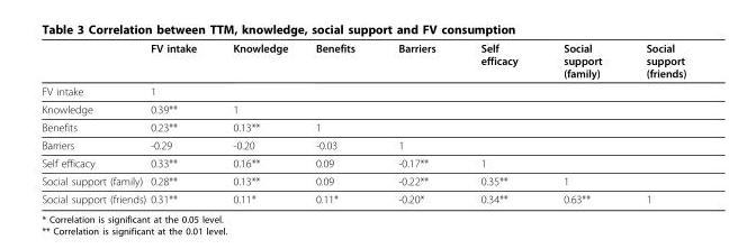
<table><thead><tr><td></td><td>FV intake</td><td>Knowledge</td><td>Benefits</td><td>Barriers</td><td>Self efficacy</td><td>Social support (family)</td><td>Social support (friends)</td></tr></thead><tbody><tr><td>FV intake</td><td>1</td><td></td><td></td><td></td><td></td><td></td><td></td></tr><tr><td>Knowledge</td><td>0.39**</td><td>1</td><td></td><td></td><td></td><td></td><td></td></tr><tr><td>Benefits</td><td>0.23**</td><td>0.13**</td><td>1</td><td></td><td></td><td></td><td></td></tr><tr><td>Barriers</td><td>-0.29</td><td>-0.20</td><td>-0.03</td><td>1</td><td></td><td></td><td></td></tr><tr><td>Self efficacy</td><td>0.33**</td><td>0.16**</td><td>0.09</td><td>-0.17**</td><td>1</td><td></td><td></td></tr><tr><td>Social support (family)</td><td>0.28**</td><td>0.13**</td><td>0.09</td><td>-0.22**</td><td>0.35**</td><td>1</td><td></td></tr><tr><td>Social support (friends)</td><td>0.31**</td><td>0.11*</td><td>0.11*</td><td>-0.20*</td><td>0.34**</td><td>0.63**</td><td>1</td></tr></tbody></table>